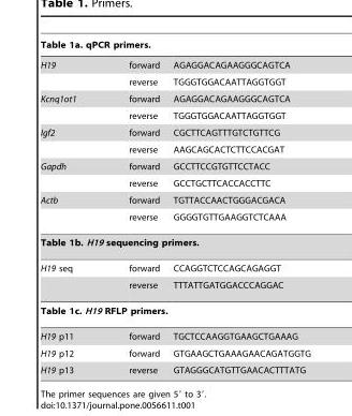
<table><thead><tr><td colspan="2">Table 1a. qPCR primers.</td><td rowspan="2">AGAGGACAGAAGGGCAGTCA</td></tr><tr><td>H19</td><td>forward</td></tr></thead><tbody><tr><td></td><td>reverse</td><td>TGGGTGGACAATTAGGTGGT</td></tr><tr><td rowspan="2">Kcnq1ot1</td><td>forward</td><td>AGAGGACAGAAGGGCAGTCA</td></tr><tr><td>reverse</td><td>TGGGTGGACAATTAGGTGGT</td></tr><tr><td rowspan="2">Igf2</td><td>forward</td><td>CGCTTCAGTTTGTCTGTTCG</td></tr><tr><td>reverse</td><td>AAGCAGCACTCTTCCACGAT</td></tr><tr><td rowspan="2">Gapdh</td><td>forward</td><td>GCCTTCCGTGTTCCTACC</td></tr><tr><td>reverse</td><td>GCCTGCTTCACCACCTTC</td></tr><tr><td rowspan="2">Actb</td><td>forward</td><td>TGTTACCAACTGGGACGACA</td></tr><tr><td>reverse</td><td>GGGGTGTTGAAGGTCTCAAA</td></tr><tr><td colspan="3">Table 1b. H19 sequencing primers.</td></tr><tr><td rowspan="2">H19 seq</td><td>forward</td><td>CCAGGTCTCCAGCAGAGGT</td></tr><tr><td>reverse</td><td>TTTATTGATGGACCCAGGAC</td></tr><tr><td colspan="3">Table 1c. H19 RFLP primers.</td></tr><tr><td>H19 p11</td><td>forward</td><td>TGCTCCAAGGTGAAGCTGAAAG</td></tr><tr><td>H19 p12</td><td>forward</td><td>GTGAAGCTGAAAGAACAGATGGTG</td></tr><tr><td>H19 p13</td><td>reverse</td><td>GTAGGGCATGTTGAACACTTTATG</td></tr></tbody></table>